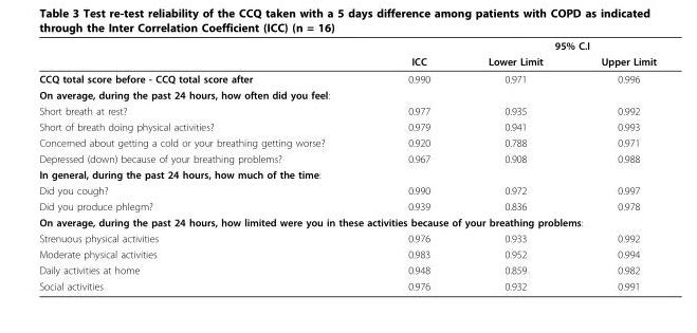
<table><thead><tr><td rowspan="2"></td><td rowspan="2">ICC</td><td colspan="2">95% C.I</td></tr><tr><td>Lower Limit</td><td>Upper Limit</td></tr></thead><tbody><tr><td>CCQ total score before - CCQ total score after</td><td>0.990</td><td>0.971</td><td>0.996</td></tr><tr><td colspan="4">On average, during the past 24 hours, how often did you feel:</td></tr><tr><td>Short breath at rest?</td><td>0.977</td><td>0.935</td><td>0.992</td></tr><tr><td>Short of breath doing physical activities?</td><td>0.979</td><td>0.941</td><td>0.993</td></tr><tr><td>Concerned about getting a cold or your breathing getting worse?</td><td>0.920</td><td>0.788</td><td>0.971</td></tr><tr><td>Depressed (down) because of your breathing problems?</td><td>0.967</td><td>0.908</td><td>0.988</td></tr><tr><td colspan="4">In general, during the past 24 hours, how much of the time:</td></tr><tr><td>Did you cough?</td><td>0.990</td><td>0.972</td><td>0.997</td></tr><tr><td>Did you produce phlegm?</td><td>0.939</td><td>0.836</td><td>0.978</td></tr><tr><td colspan="4">On average, during the past 24 hours, how limited were you in these activities because of your breathing problems:</td></tr><tr><td>Strenuous physical activities</td><td>0.976</td><td>0.933</td><td>0.992</td></tr><tr><td>Moderate physical activities</td><td>0.983</td><td>0.952</td><td>0.994</td></tr><tr><td>Daily activities at home</td><td>0.948</td><td>0.859</td><td>0.982</td></tr><tr><td>Social activities</td><td>0.976</td><td>0.932</td><td>0.991</td></tr></tbody></table>